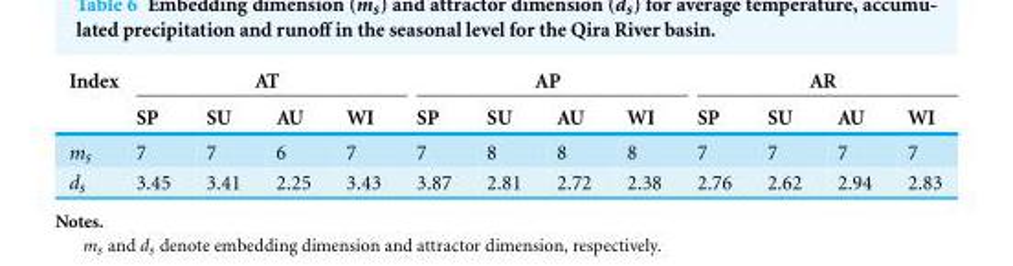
<table><thead><tr><td rowspan="2">Index</td><td colspan="4">AT</td><td colspan="4">AP</td><td colspan="4">AR</td></tr><tr><td>SP</td><td>SU</td><td>AU</td><td>WI</td><td>SP</td><td>SU</td><td>AU</td><td>WI</td><td>SP</td><td>SU</td><td>AU</td><td>WI</td></tr></thead><tbody><tr><td>m<sub>s</sub></td><td>7</td><td>7</td><td>6</td><td>7</td><td>7</td><td>8</td><td>8</td><td>8</td><td>7</td><td>7</td><td>7</td><td>7</td></tr><tr><td>d<sub>s</sub></td><td>3.45</td><td>3.41</td><td>2.25</td><td>3.43</td><td>3.87</td><td>2.81</td><td>2.72</td><td>2.38</td><td>2.76</td><td>2.62</td><td>2.94</td><td>2.83</td></tr></tbody></table>